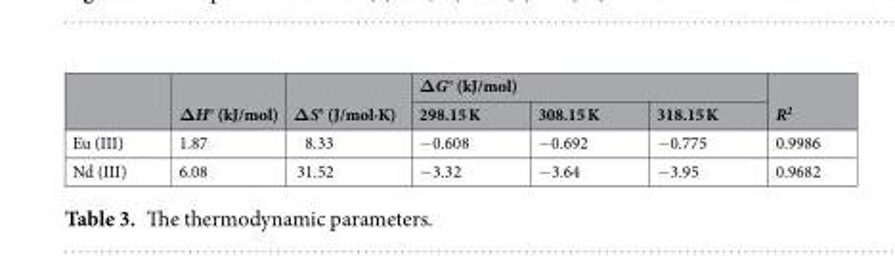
<table><thead><tr><td rowspan="2"></td><td rowspan="2">ΔH° (kJ/mol)</td><td rowspan="2">ΔS° (J/mol∙K)</td><td colspan="3">ΔG° (kJ/mol)</td><td rowspan="2">R<sup>2</sup></td></tr><tr><td>298.15 K</td><td>308.15 K</td><td>318.15 K</td></tr></thead><tbody><tr><td>Eu (III)</td><td>1.87</td><td>8.33</td><td>−0.608</td><td>−0.692</td><td>−0.775</td><td>0.9986</td></tr><tr><td>Nd (III)</td><td>6.08</td><td>31.52</td><td>−3.32</td><td>−3.64</td><td>−3.95</td><td>0.9682</td></tr></tbody></table>